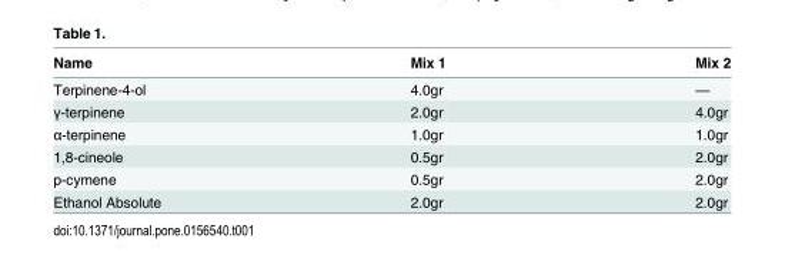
<table><thead><tr><td>Name</td><td>Mix 1</td><td>Mix 2</td></tr></thead><tbody><tr><td>Terpinene-4-ol</td><td>4.0gr</td><td>—</td></tr><tr><td>γ-terpinene</td><td>2.0gr</td><td>4.0gr</td></tr><tr><td>α-terpinene</td><td>1.0gr</td><td>1.0gr</td></tr><tr><td>1,8-cineole</td><td>0.5gr</td><td>2.0gr</td></tr><tr><td>p-cymene</td><td>0.5gr</td><td>2.0gr</td></tr><tr><td>Ethanol Absolute</td><td>2.0gr</td><td>2.0gr</td></tr></tbody></table>